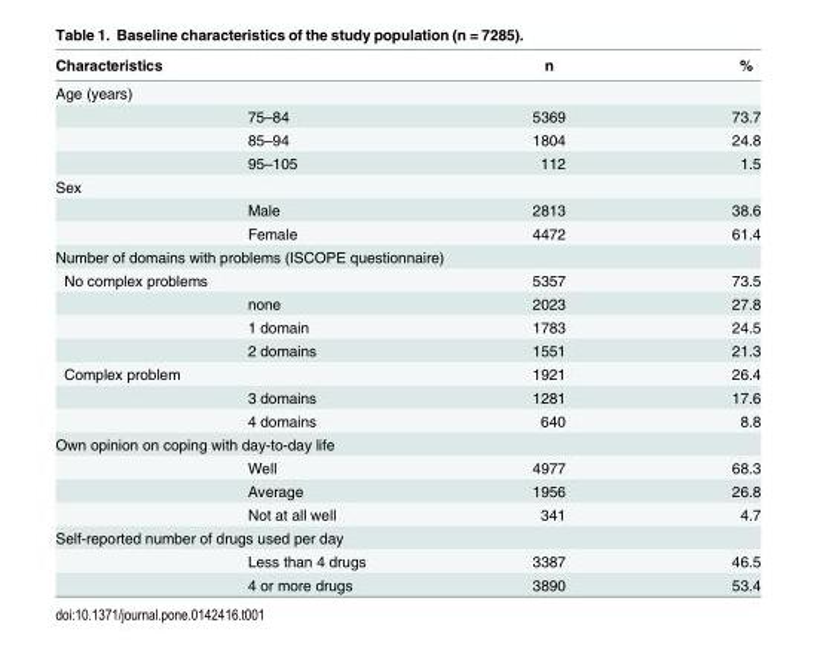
<table><thead><tr><td rowspan="2" colspan="2">Characteristics Age (years)</td><td rowspan="3">n 5369</td><td rowspan="3">% 73.7</td></tr><tr></tr><tr><td></td><td>75–84</td></tr></thead><tbody><tr><td></td><td>85–94</td><td>1804</td><td>24.8</td></tr><tr><td></td><td>95–105</td><td>112</td><td>1.5</td></tr><tr><td colspan="4">Sex</td></tr><tr><td></td><td>Male</td><td>2813</td><td>38.6</td></tr><tr><td></td><td>Female</td><td>4472</td><td>61.4</td></tr><tr><td colspan="4">Number of domains with problems (ISCOPE questionnaire)</td></tr><tr><td colspan="2">No complex problems</td><td>5357</td><td>73.5</td></tr><tr><td></td><td>none</td><td>2023</td><td>27.8</td></tr><tr><td></td><td>1 domain</td><td>1783</td><td>24.5</td></tr><tr><td></td><td>2 domains</td><td>1551</td><td>21.3</td></tr><tr><td colspan="2">Complex problem</td><td>1921</td><td>26.4</td></tr><tr><td></td><td>3 domains</td><td>1281</td><td>17.6</td></tr><tr><td></td><td>4 domains</td><td>640</td><td>8.8</td></tr><tr><td colspan="4">Own opinion on coping with day-to-day life</td></tr><tr><td></td><td>Well</td><td>4977</td><td>68.3</td></tr><tr><td></td><td>Average</td><td>1956</td><td>26.8</td></tr><tr><td></td><td>Not at all well</td><td>341</td><td>4.7</td></tr><tr><td colspan="4">Self-reported number of drugs used per day</td></tr><tr><td></td><td>Less than 4 drugs</td><td>3387</td><td>46.5</td></tr><tr><td></td><td>4 or more drugs</td><td>3890</td><td>53.4</td></tr></tbody></table>